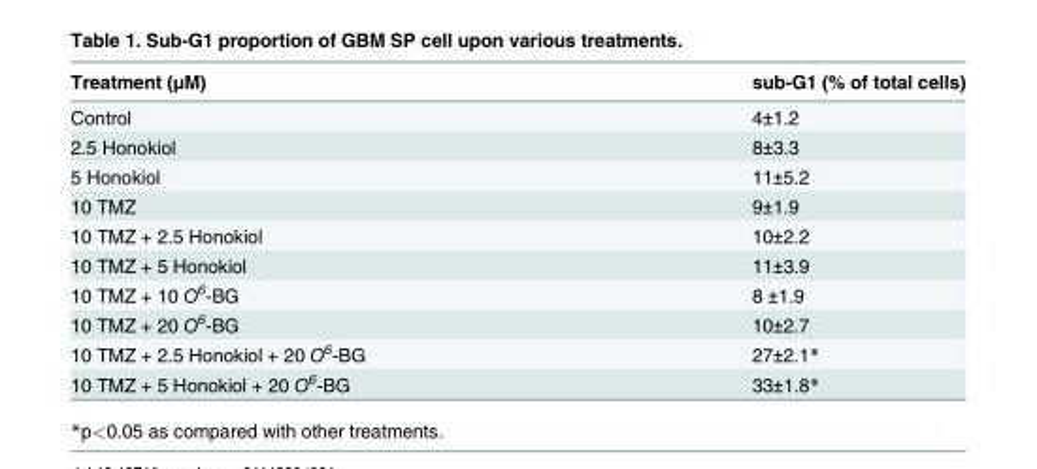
<table><thead><tr><td>Treatment (μM)</td><td>sub-G1 (% of total cells)</td></tr></thead><tbody><tr><td>Control</td><td>4±1.2</td></tr><tr><td>2.5 Honokiol</td><td>8±3.3</td></tr><tr><td>5 Honokiol</td><td>11±5.2</td></tr><tr><td>10 TMZ</td><td>9±1.9</td></tr><tr><td>10 TMZ + 2.5 Honokiol</td><td>10±2.2</td></tr><tr><td>10 TMZ + 5 Honokiol</td><td>11±3.9</td></tr><tr><td>10 TMZ + 10 O<sup>6</sup>-BG</td><td>8 ±1.9</td></tr><tr><td>10 TMZ + 20 O<sup>6</sup>-BG</td><td>10±2.7</td></tr><tr><td>10 TMZ + 2.5 Honokiol + 20 O<sup>6</sup>-BG</td><td>27±2.1*</td></tr><tr><td>10 TMZ + 5 Honokiol + 20 O<sup>6</sup>-BG</td><td>33±1.8*</td></tr></tbody></table>